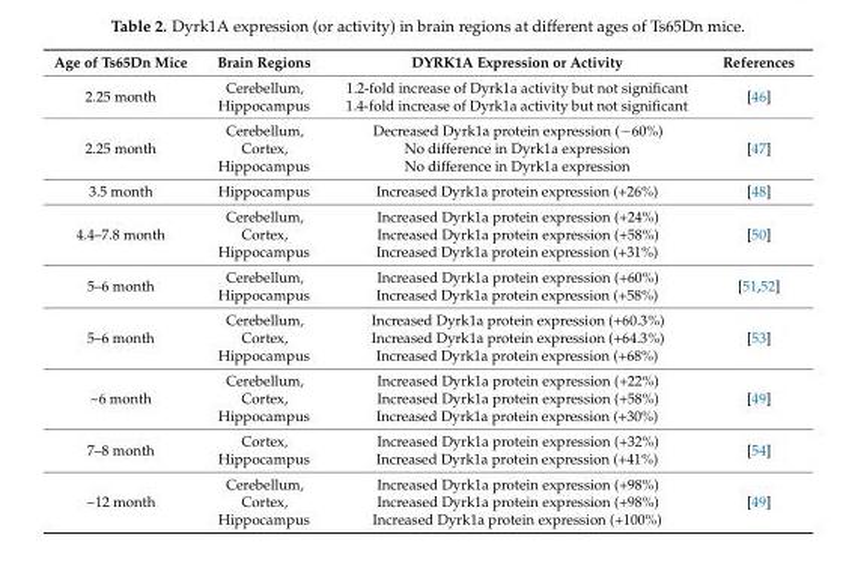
<table><thead><tr><td>Age of Ts65Dn Mice</td><td>Brain Regions</td><td>DYRK1A Expression or Activity</td><td>References</td></tr></thead><tbody><tr><td>2.25 month</td><td>Cerebellum, Hippocampus</td><td>1.2-fold increase of Dyrk1a activity but not significant 1.4-fold increase of Dyrk1a activity but not significant</td><td>[46]</td></tr><tr><td>2.25 month</td><td>Cerebellum, Cortex, Hippocampus</td><td>Decreased Dyrk1a protein expression (−60%) No difference in Dyrk1a expression No difference in Dyrk1a expression</td><td>[47]</td></tr><tr><td>3.5 month</td><td>Hippocampus</td><td>Increased Dyrk1a protein expression (+26%)</td><td>[48]</td></tr><tr><td>4.4–7.8 month</td><td>Cerebellum, Cortex, Hippocampus</td><td>Increased Dyrk1a protein expression (+24%) Increased Dyrk1a protein expression (+58%) Increased Dyrk1a protein expression (+31%)</td><td>[50]</td></tr><tr><td>5–6 month</td><td>Cerebellum, Hippocampus</td><td>Increased Dyrk1a protein expression (+60%) Increased Dyrk1a protein expression (+58%)</td><td>[51,52]</td></tr><tr><td>5–6 month</td><td>Cerebellum, Cortex, Hippocampus</td><td>Increased Dyrk1a protein expression (+60.3%) Increased Dyrk1a protein expression (+64.3%) Increased Dyrk1a protein expression (+68%)</td><td>[53]</td></tr><tr><td>~6 month</td><td>Cerebellum, Cortex, Hippocampus</td><td>Increased Dyrk1a protein expression (+22%) Increased Dyrk1a protein expression (+58%) Increased Dyrk1a protein expression (+30%)</td><td>[49]</td></tr><tr><td>7–8 month</td><td>Cortex, Hippocampus</td><td>Increased Dyrk1a protein expression (+32%) Increased Dyrk1a protein expression (+41%)</td><td>[54]</td></tr><tr><td>~12 month</td><td>Cerebellum, Cortex, Hippocampus</td><td>Increased Dyrk1a protein expression (+98%) Increased Dyrk1a protein expression (+98%) Increased Dyrk1a protein expression (+100%)</td><td>[49]</td></tr></tbody></table>